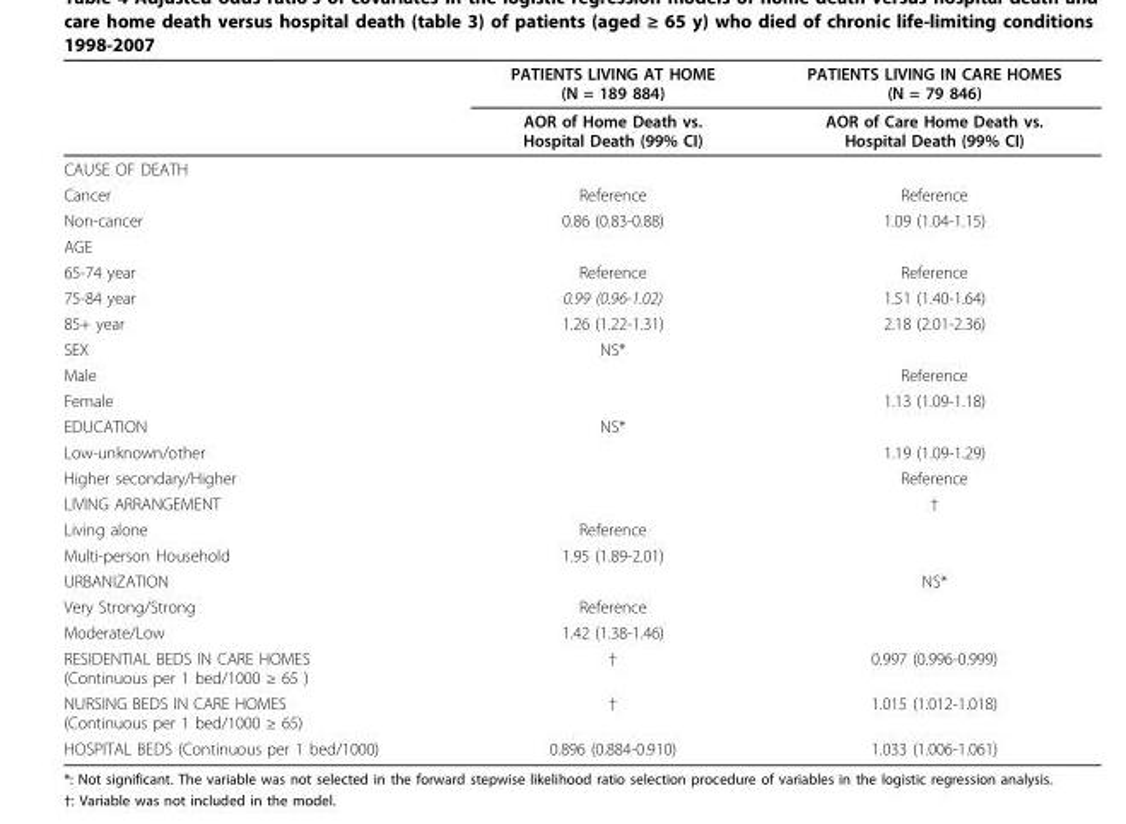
<table><thead><tr><td rowspan="2"></td><td rowspan="2">PATIENTS LIVING AT HOME (N = 189 884) AOR of Home Death vs. Hospital Death (99% CI)</td><td rowspan="2">PATIENTS LIVING IN CARE HOMES (N = 79 846) AOR of Care Home Death vs. Hospital Death (99% CI)</td></tr><tr></tr></thead><tbody><tr><td colspan="3">CAUSE OF DEATH</td></tr><tr><td>Cancer</td><td>Reference</td><td>Reference</td></tr><tr><td>Non-cancer</td><td>0.86 (0.83-0.88)</td><td>1.09 (1.04-1.15)</td></tr><tr><td colspan="3">AGE</td></tr><tr><td>65-74 year</td><td>Reference</td><td>Reference</td></tr><tr><td>75-84 year</td><td>0.99 (0.96-1.02)</td><td>1.51 (1.40-1.64)</td></tr><tr><td>85+ year</td><td>1.26 (1.22-1.31)</td><td>2.18 (2.01-2.36)</td></tr><tr><td>SEX</td><td>NS*</td><td></td></tr><tr><td>Male</td><td></td><td>Reference</td></tr><tr><td>Female</td><td></td><td>1.13 (1.09-1.18)</td></tr><tr><td>EDUCATION</td><td>NS*</td><td></td></tr><tr><td>Low-unknown/other</td><td></td><td>1.19 (1.09-1.29)</td></tr><tr><td>Higher secondary/Higher</td><td></td><td>Reference</td></tr><tr><td>LIVING ARRANGEMENT</td><td></td><td>†</td></tr><tr><td>Living alone</td><td>Reference</td><td></td></tr><tr><td>Multi-person Household</td><td>1.95 (1.89-2.01)</td><td></td></tr><tr><td>URBANIZATION</td><td></td><td>NS*</td></tr><tr><td>Very Strong/Strong</td><td>Reference</td><td></td></tr><tr><td>Moderate/Low</td><td>1.42 (1.38-1.46)</td><td></td></tr><tr><td>RESIDENTIAL BEDS IN CARE HOMES (Continuous per 1 bed/1000 ≥ 65 )</td><td>†</td><td>0.997 (0.996-0.999)</td></tr><tr><td>NURSING BEDS IN CARE HOMES (Continuous per 1 bed/1000 ≥ 65)</td><td>†</td><td>1.015 (1.012-1.018)</td></tr><tr><td>HOSPITAL BEDS (Continuous per 1 bed/1000)</td><td>0.896 (0.884-0.910)</td><td>1.033 (1.006-1.061)</td></tr></tbody></table>